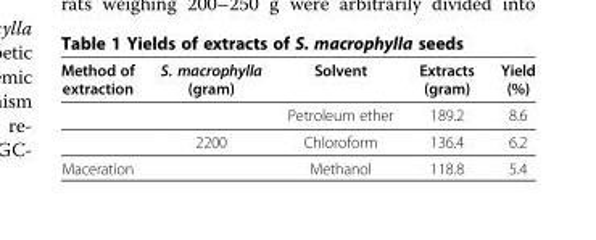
<table><thead><tr><td>Method of extraction</td><td>S. macrophylla (gram)</td><td>Solvent</td><td>Extracts (gram)</td><td>Yield (%)</td></tr></thead><tbody><tr><td></td><td></td><td>Petroleum ether</td><td>189.2</td><td>8.6</td></tr><tr><td></td><td>2200</td><td>Chloroform</td><td>136.4</td><td>6.2</td></tr><tr><td>Maceration</td><td></td><td>Methanol</td><td>118.8</td><td>5.4</td></tr></tbody></table>